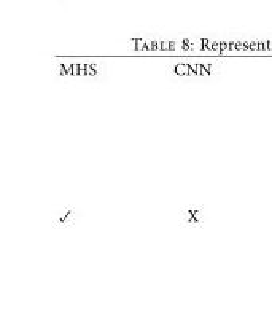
<table><tbody><tr><td>MHS</td><td>CNN</td></tr><tr><td>✓</td><td>X</td></tr></tbody></table>